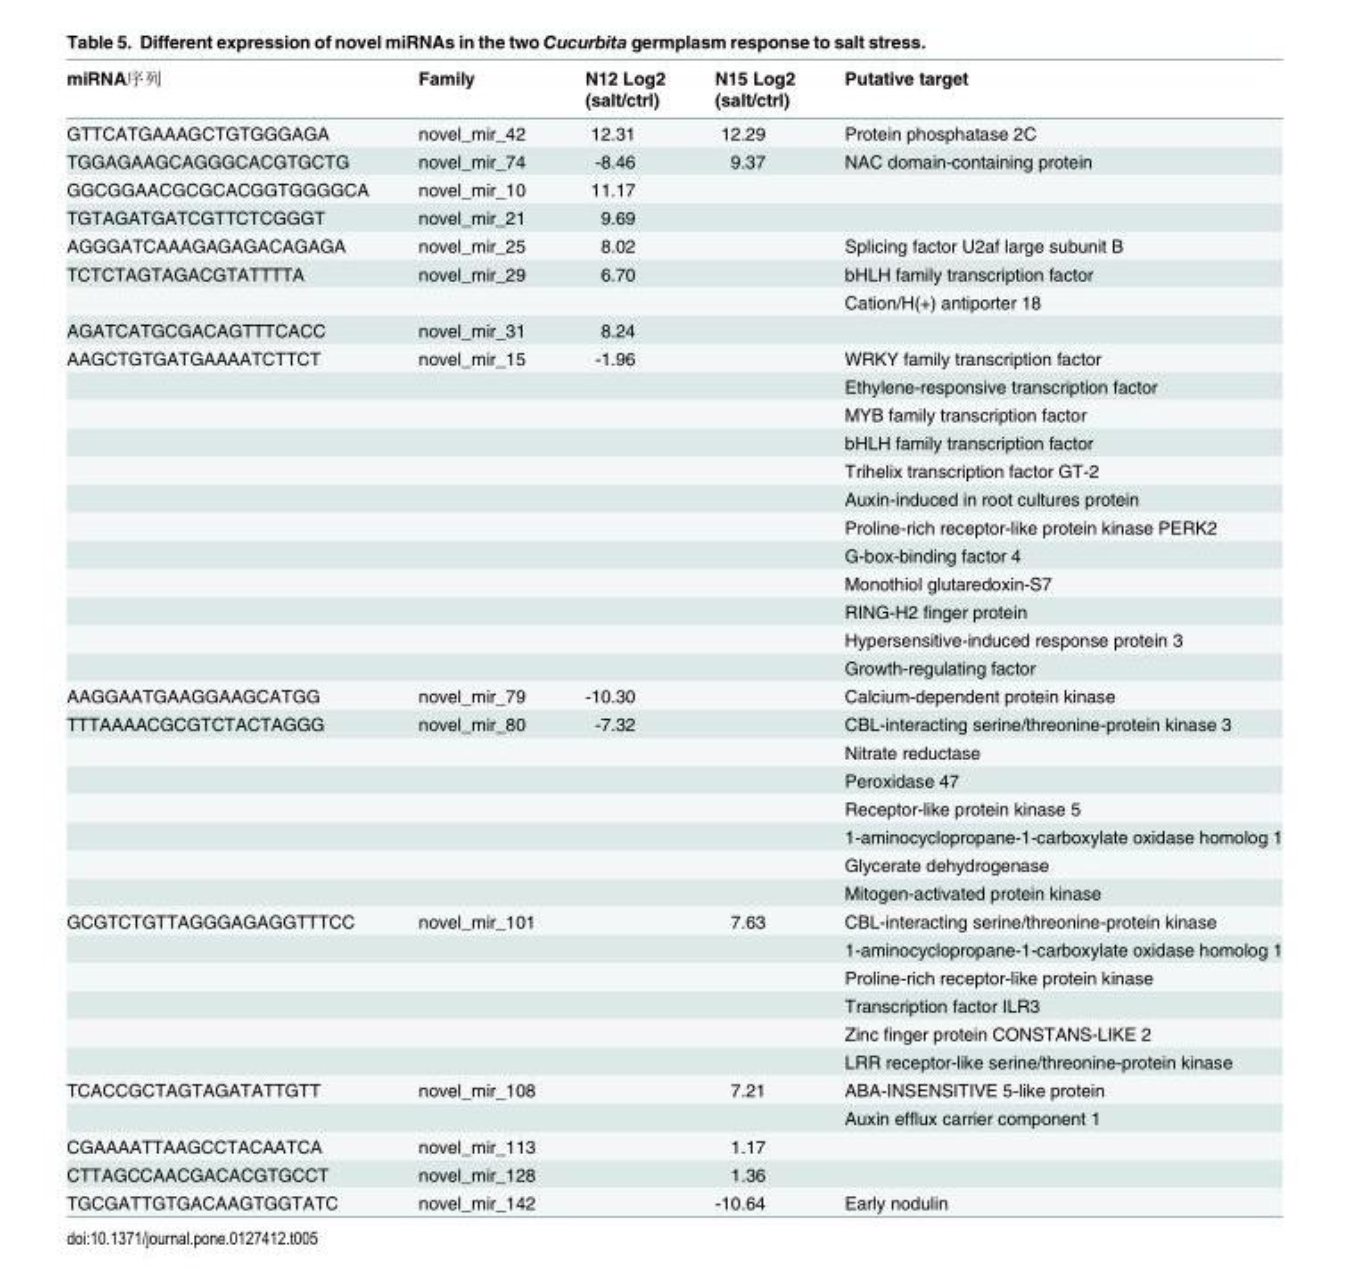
<table><thead><tr><td>miRNA序列</td><td>Family</td><td>N12 Log2 (salt/ctrl)</td><td>N15 Log2 (salt/ctrl)</td><td>Putative target</td></tr></thead><tbody><tr><td>GTTCATGAAAGCTGTGGGAGA</td><td>novel_mir_42</td><td>12.31</td><td>12.29</td><td>Protein phosphatase 2C</td></tr><tr><td>TGGAGAAGCAGGGCACGTGCTG</td><td>novel_mir_74</td><td>-8.46</td><td>9.37</td><td>NAC domain-containing protein</td></tr><tr><td>GGCGGAACGCGCACGGTGGGGCA</td><td>novel_mir_10</td><td>11.17</td><td></td><td></td></tr><tr><td>TGTAGATGATCGTTCTCGGGT</td><td>novel_mir_21</td><td>9.69</td><td></td><td></td></tr><tr><td>AGGGATCAAAGAGAGACAGAGA</td><td>novel_mir_25</td><td>8.02</td><td></td><td>Splicing factor U2af large subunit B</td></tr><tr><td rowspan="2">TCTCTAGTAGACGTATTTTA</td><td>novel_mir_29</td><td>6.70</td><td></td><td>bHLH family transcription factor</td></tr><tr><td></td><td></td><td></td><td>Cation/H(+) antiporter 18</td></tr><tr><td>AGATCATGCGACAGTTTCACC</td><td>novel_mir_31</td><td>8.24</td><td></td><td></td></tr><tr><td rowspan="12">AAGCTGTGATGAAAATCTTCT</td><td>novel_mir_15</td><td>-1.96</td><td></td><td>WRKY family transcription factor</td></tr><tr><td></td><td></td><td></td><td>Ethylene-responsive transcription factor</td></tr><tr><td></td><td></td><td></td><td>MYB family transcription factor</td></tr><tr><td></td><td></td><td></td><td>bHLH family transcription factor</td></tr><tr><td></td><td></td><td></td><td>Trihelix transcription factor GT-2</td></tr><tr><td></td><td></td><td></td><td>Auxin-induced in root cultures protein</td></tr><tr><td></td><td></td><td></td><td>Proline-rich receptor-like protein kinase PERK2</td></tr><tr><td></td><td></td><td></td><td>G-box-binding factor 4</td></tr><tr><td></td><td></td><td></td><td>Monothiol glutaredoxin-S7</td></tr><tr><td></td><td></td><td></td><td>RING-H2 finger protein</td></tr><tr><td></td><td></td><td></td><td>Hypersensitive-induced response protein 3</td></tr><tr><td></td><td></td><td></td><td>Growth-regulating factor</td></tr><tr><td>AAGGAATGAAGGAAGCATGG</td><td>novel_mir_79</td><td>-10.30</td><td></td><td>Calcium-dependent protein kinase</td></tr><tr><td rowspan="7">TTTAAAACGCGTCTACTAGGG</td><td>novel_mir_80</td><td>-7.32</td><td></td><td>CBL-interacting serine/threonine-protein kinase 3</td></tr><tr><td></td><td></td><td></td><td>Nitrate reductase</td></tr><tr><td></td><td></td><td></td><td>Peroxidase 47</td></tr><tr><td></td><td></td><td></td><td>Receptor-like protein kinase 5</td></tr><tr><td></td><td></td><td></td><td>1-aminocyclopropane-1-carboxylate oxidase homolog 1</td></tr><tr><td></td><td></td><td></td><td>Glycerate dehydrogenase</td></tr><tr><td></td><td></td><td></td><td>Mitogen-activated protein kinase</td></tr><tr><td rowspan="6">GCGTCTGTTAGGGAGAGGTTTCC</td><td>novel_mir_101</td><td></td><td>7.63</td><td>CBL-interacting serine/threonine-protein kinase</td></tr><tr><td></td><td></td><td></td><td>1-aminocyclopropane-1-carboxylate oxidase homolog 1</td></tr><tr><td></td><td></td><td></td><td>Proline-rich receptor-like protein kinase</td></tr><tr><td></td><td></td><td></td><td>Transcription factor ILR3</td></tr><tr><td></td><td></td><td></td><td>Zinc finger protein CONSTANS-LIKE 2</td></tr><tr><td></td><td></td><td></td><td>LRR receptor-like serine/threonine-protein kinase</td></tr><tr><td rowspan="2">TCACCGCTAGTAGATATTGTT</td><td>novel_mir_108</td><td></td><td>7.21</td><td>ABA-INSENSITIVE 5-like protein</td></tr><tr><td></td><td></td><td></td><td>Auxin efflux carrier component 1</td></tr><tr><td>CGAAAATTAAGCCTACAATCA</td><td>novel_mir_113</td><td></td><td>1.17</td><td></td></tr><tr><td>CTTAGCCAACGACACGTGCCT</td><td>novel_mir_128</td><td></td><td>1.36</td><td></td></tr><tr><td>TGCGATTGTGACAAGTGGTATC</td><td>novel_mir_142</td><td></td><td>-10.64</td><td>Early nodulin</td></tr></tbody></table>